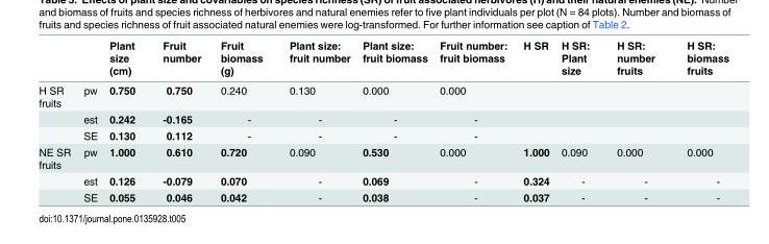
<table><thead><tr><td></td><td></td><td>Plant size (cm)</td><td>Fruit number</td><td>Fruit biomass (g)</td><td>Plant size: fruit number</td><td>Plant size: fruit biomass</td><td>Fruit number: fruit biomass</td><td>H SR</td><td>H SR: Plant size</td><td>H SR: number fruits</td><td>H SR: biomass fruits</td></tr></thead><tbody><tr><td rowspan="3">H SR fruits</td><td>pw</td><td>0.750</td><td>0.750</td><td>0.240</td><td>0.130</td><td>0.000</td><td>0.000</td><td></td><td></td><td></td><td></td></tr><tr><td>est</td><td>0.242</td><td>-0.165</td><td>-</td><td>-</td><td>-</td><td>-</td><td></td><td></td><td></td><td></td></tr><tr><td>SE</td><td>0.130</td><td>0.112</td><td>-</td><td>-</td><td>-</td><td>-</td><td></td><td></td><td></td><td></td></tr><tr><td rowspan="3">NE SR fruits</td><td>pw</td><td>1.000</td><td>0.610</td><td>0.720</td><td>0.090</td><td>0.530</td><td>0.000</td><td>1.000</td><td>0.090</td><td>0.000</td><td>0.000</td></tr><tr><td>est</td><td>0.126</td><td>-0.079</td><td>0.070</td><td>-</td><td>0.069</td><td>-</td><td>0.324</td><td>-</td><td>-</td><td>-</td></tr><tr><td>SE</td><td>0.055</td><td>0.046</td><td>0.042</td><td>-</td><td>0.038</td><td>-</td><td>0.037</td><td>-</td><td>-</td><td>-</td></tr></tbody></table>